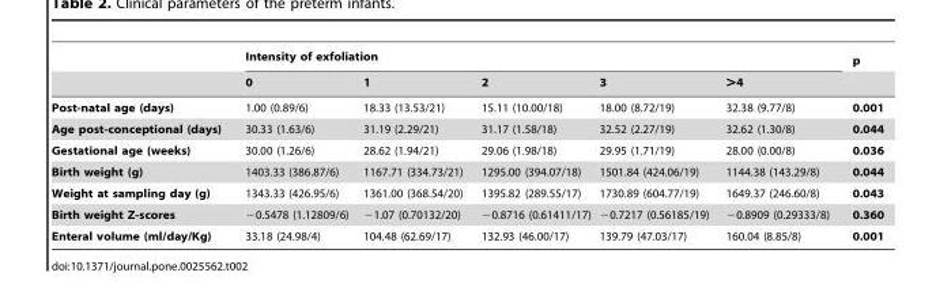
<table><thead><tr><td rowspan="2"></td><td colspan="5">Intensity of exfoliation</td><td rowspan="2">p</td></tr><tr><td>0</td><td>1</td><td>2</td><td>3</td><td>&gt;4</td></tr></thead><tbody><tr><td>Post-natal age (days)</td><td>1.00 (0.89/6)</td><td>18.33 (13.53/21)</td><td>15.11 (10.00/18)</td><td>18.00 (8.72/19)</td><td>32.38 (9.77/8)</td><td>0.001</td></tr><tr><td>Age post-conceptional (days)</td><td>30.33 (1.63/6)</td><td>31.19 (2.29/21)</td><td>31.17 (1.58/18)</td><td>32.52 (2.27/19)</td><td>32.62 (1.30/8)</td><td>0.044</td></tr><tr><td>Gestational age (weeks)</td><td>30.00 (1.26/6)</td><td>28.62 (1.94/21)</td><td>29.06 (1.98/18)</td><td>29.95 (1.71/19)</td><td>28.00 (0.00/8)</td><td>0.036</td></tr><tr><td>Birth weight (g)</td><td>1403.33 (386.87/6)</td><td>1167.71 (334.73/21)</td><td>1295.00 (394.07/18)</td><td>1501.84 (424.06/19)</td><td>1144.38 (143.29/8)</td><td>0.044</td></tr><tr><td>Weight at sampling day (g)</td><td>1343.33 (426.95/6)</td><td>1361.00 (368.54/20)</td><td>1395.82 (289.55/17)</td><td>1730.89 (604.77/19)</td><td>1649.37 (246.60/8)</td><td>0.043</td></tr><tr><td>Birth weight Z-scores</td><td>−0.5478 (1.12809/6)</td><td>−1.07 (0.70132/20)</td><td>−0.8716 (0.61411/17)</td><td>−0.7217 (0.56185/19)</td><td>−0.8909 (0.29333/8)</td><td>0.360</td></tr><tr><td>Enteral volume (ml/day/Kg)</td><td>33.18 (24.98/4)</td><td>104.48 (62.69/17)</td><td>132.93 (46.00/17)</td><td>139.79 (47.03/17)</td><td>160.04 (8.85/8)</td><td>0.001</td></tr></tbody></table>